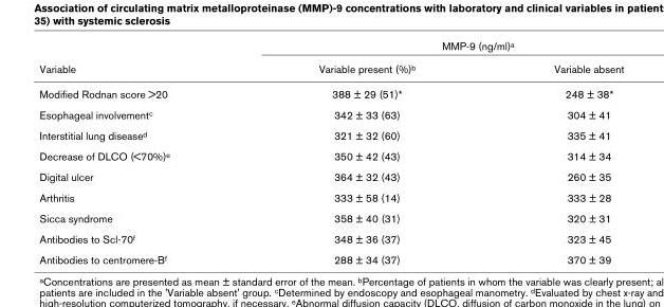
<table><thead><tr><td rowspan="2">Variable</td><td colspan="2">MMP-9 (ng/ml)a</td></tr><tr><td>Variable present (%)b</td><td>Variable absent</td></tr></thead><tbody><tr><td>Modified Rodnan score &gt;20</td><td>388 ± 29 (51)*</td><td>248 ± 38*</td></tr><tr><td>Esophageal involvementc</td><td>342 ± 33 (63)</td><td>304 ± 41</td></tr><tr><td>Interstitial lung diseased</td><td>321 ± 32 (60)</td><td>335 ± 41</td></tr><tr><td>Decrease of DLCO (&lt;70%)e</td><td>350 ± 42 (43)</td><td>314 ± 34</td></tr><tr><td>Digital ulcer</td><td>364 ± 32 (43)</td><td>260 ± 35</td></tr><tr><td>Arthritis</td><td>333 ± 58 (14)</td><td>333 ± 28</td></tr><tr><td>Sicca syndrome</td><td>358 ± 40 (31)</td><td>320 ± 31</td></tr><tr><td>Antibodies to Scl-70f</td><td>348 ± 36 (37)</td><td>323 ± 45</td></tr><tr><td>Antibodies to centromere-Bf</td><td>288 ± 34 (37)</td><td>370 ± 39</td></tr></tbody></table>